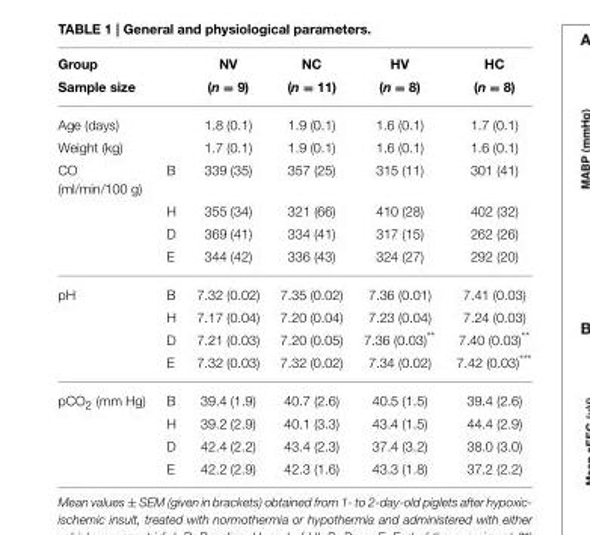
<table><thead><tr><td rowspan="2" colspan="2">Group Sample size</td><td rowspan="3">NV (n = 9) 1.8 (0.1)</td><td rowspan="3">NC (n = 11) 1.9 (0.1)</td><td rowspan="3">HV (n = 8) 1.6 (0.1)</td><td rowspan="3">HC (n = 8) 1.7 (0.1)</td></tr><tr></tr><tr><td>Age (days)</td><td></td></tr></thead><tbody><tr><td>Weight (kg)</td><td></td><td>1.7 (0.1)</td><td>1.9 (0.1)</td><td>1.6 (0.1)</td><td>1.6 (0.1)</td></tr><tr><td rowspan="4">CO (ml/min/100 g)</td><td>B</td><td>339 (35)</td><td>357 (25)</td><td>315 (11)</td><td>301 (41)</td></tr><tr><td>H</td><td>355 (34)</td><td>321 (66)</td><td>410 (28)</td><td>402 (32)</td></tr><tr><td>D</td><td>369 (41)</td><td>334 (41)</td><td>317 (15)</td><td>262 (26)</td></tr><tr><td>E</td><td>344 (42)</td><td>336 (43)</td><td>324 (27)</td><td>292 (20)</td></tr><tr><td rowspan="4">pH</td><td>B</td><td>7.32 (0.02)</td><td>7.35 (0.02)</td><td>7.36 (0.01)</td><td>7.41 (0.03)</td></tr><tr><td>H</td><td>7.17 (0.04)</td><td>7.20 (0.04)</td><td>7.23 (0.04)</td><td>7.24 (0.03)</td></tr><tr><td>D</td><td>7.21 (0.03)</td><td>7.20 (0.05)</td><td>7.36 (0.03)**</td><td>7.40 (0.03)**</td></tr><tr><td>E</td><td>7.32 (0.03)</td><td>7.32 (0.02)</td><td>7.34 (0.02)</td><td>7.42 (0.03)***</td></tr><tr><td rowspan="4">pCO<sub>2</sub> (mm Hg)</td><td>B</td><td>39.4 (1.9)</td><td>40.7 (2.6)</td><td>40.5 (1.5)</td><td>39.4 (2.6)</td></tr><tr><td>H</td><td>39.2 (2.9)</td><td>40.1 (3.3)</td><td>43.4 (1.5)</td><td>44.4 (2.9)</td></tr><tr><td>D</td><td>42.4 (2.2)</td><td>43.4 (2.3)</td><td>37.4 (3.2)</td><td>38.0 (3.0)</td></tr><tr><td>E</td><td>42.2 (2.9)</td><td>42.3 (1.6)</td><td>43.3 (1.8)</td><td>37.2 (2.2)</td></tr></tbody></table>